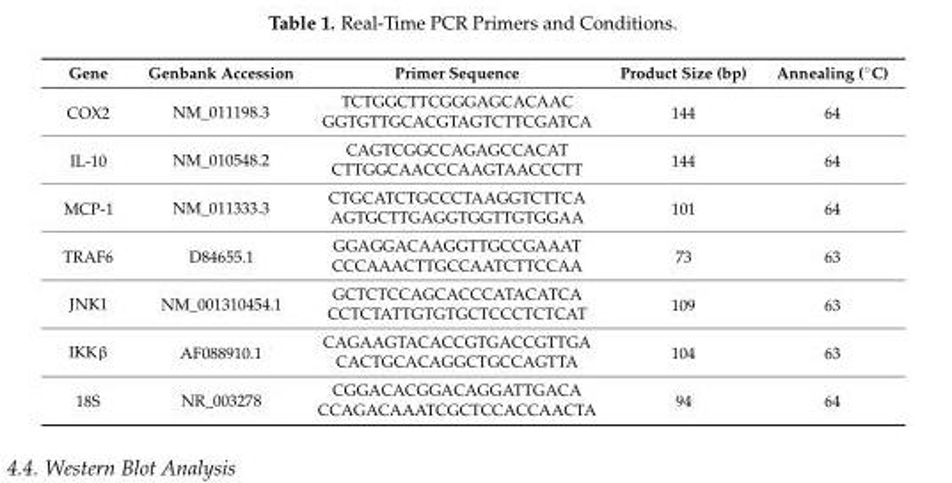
<table><thead><tr><td>Gene</td><td>Genbank Accession</td><td>Primer Sequence</td><td>Product Size (bp)</td><td>Annealing (◦C)</td></tr></thead><tbody><tr><td rowspan="2">COX2</td><td rowspan="2">NM_011198.3</td><td>TCTGGCTTCGGGAGCACAAC</td><td rowspan="2">144</td><td rowspan="2">64</td></tr><tr><td>GGTGTTGCACGTAGTCTTCGATCA</td></tr><tr><td rowspan="2">IL-10</td><td rowspan="2">NM_010548.2</td><td>CAGTCGGCCAGAGCCACAT</td><td rowspan="2">144</td><td rowspan="2">64</td></tr><tr><td>CTTGGCAACCCAAGTAACCCTT</td></tr><tr><td rowspan="2">MCP-1</td><td rowspan="2">NM_011333.3</td><td>CTGCATCTGCCCTAAGGTCTTCA</td><td rowspan="2">101</td><td rowspan="2">64</td></tr><tr><td>AGTGCTTGAGGTGGTTGTGGAA</td></tr><tr><td rowspan="2">TRAF6</td><td rowspan="2">D84655.1</td><td>GGAGGACAAGGTTGCCGAAAT</td><td rowspan="2">73</td><td rowspan="2">63</td></tr><tr><td>CCCAAACTTGCCAATCTTCCAA</td></tr><tr><td rowspan="2">JNK1</td><td rowspan="2">NM_001310454.1</td><td>GCTCTCCAGCACCCATACATCA</td><td rowspan="2">109</td><td rowspan="2">63</td></tr><tr><td>CCTCTATTGTGTGCTCCCTCTCAT</td></tr><tr><td rowspan="2">IKKβ</td><td rowspan="2">AF088910.1</td><td>CAGAAGTACACCGTGACCGTTGA</td><td rowspan="2">104</td><td rowspan="2">63</td></tr><tr><td>CACTGCACAGGCTGCCAGTTA</td></tr><tr><td rowspan="2">18S</td><td rowspan="2">NR_003278</td><td>CGGACACGGACAGGATTGACA</td><td rowspan="2">94</td><td rowspan="2">64</td></tr><tr><td>CCAGACAAATCGCTCCACCAACTA</td></tr></tbody></table>